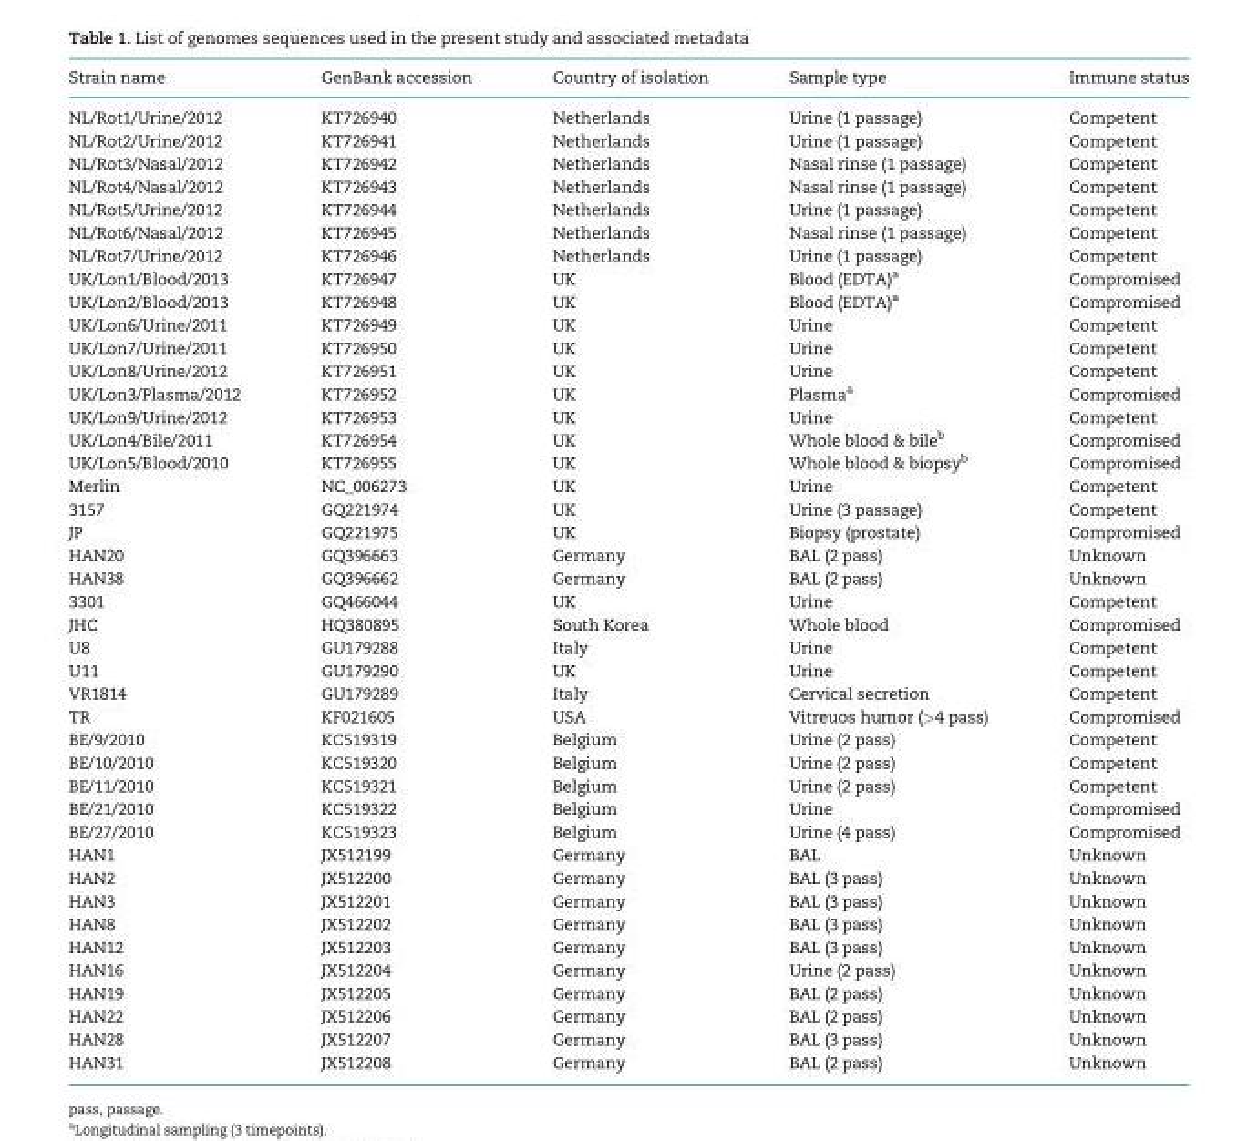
<table><thead><tr><td>Strain name</td><td>GenBank accession</td><td>Country of isolation</td><td>Sample type</td><td>Immune status</td></tr></thead><tbody><tr><td>NL/Rot1/Urine/2012</td><td>KT726940</td><td>Netherlands</td><td>Urine (1 passage)</td><td>Competent</td></tr><tr><td>NL/Rot2/Urine/2012</td><td>KT726941</td><td>Netherlands</td><td>Urine (1 passage)</td><td>Competent</td></tr><tr><td>NL/Rot3/Nasal/2012</td><td>KT726942</td><td>Netherlands</td><td>Nasal rinse (1 passage)</td><td>Competent</td></tr><tr><td>NL/Rot4/Nasal/2012</td><td>KT726943</td><td>Netherlands</td><td>Nasal rinse (1 passage)</td><td>Competent</td></tr><tr><td>NL/Rot5/Urine/2012</td><td>KT726944</td><td>Netherlands</td><td>Urine (1 passage)</td><td>Competent</td></tr><tr><td>NL/Rot6/Nasal/2012</td><td>KT726945</td><td>Netherlands</td><td>Nasal rinse (1 passage)</td><td>Competent</td></tr><tr><td>NL/Rot7/Urine/2012</td><td>KT726946</td><td>Netherlands</td><td>Urine (1 passage)</td><td>Competent</td></tr><tr><td>UK/Lon1/Blood/2013</td><td>KT726947</td><td>UK</td><td>Blood (EDTA)<sup>a</sup></td><td>Compromised</td></tr><tr><td>UK/Lon2/Blood/2013</td><td>KT726948</td><td>UK</td><td>Blood (EDTA)<sup>a</sup></td><td>Compromised</td></tr><tr><td>UK/Lon6/Urine/2011</td><td>KT726949</td><td>UK</td><td>Urine</td><td>Competent</td></tr><tr><td>UK/Lon7/Urine/2011</td><td>KT726950</td><td>UK</td><td>Urine</td><td>Competent</td></tr><tr><td>UK/Lon8/Urine/2012</td><td>KT726951</td><td>UK</td><td>Urine</td><td>Competent</td></tr><tr><td>UK/Lon3/Plasma/2012</td><td>KT726952</td><td>UK</td><td>Plasma<sup>a</sup></td><td>Compromised</td></tr><tr><td>UK/Lon9/Urine/2012</td><td>KT726953</td><td>UK</td><td>Urine</td><td>Competent</td></tr><tr><td>UK/Lon4/Bile/2011</td><td>KT726954</td><td>UK</td><td>Whole blood &amp; bile<sup>b</sup></td><td>Compromised</td></tr><tr><td>UK/Lon5/Blood/2010</td><td>KT726955</td><td>UK</td><td>Whole blood &amp; biopsy<sup>b</sup></td><td>Compromised</td></tr><tr><td>Merlin</td><td>NC_006273</td><td>UK</td><td>Urine</td><td>Competent</td></tr><tr><td>3157</td><td>GQ221974</td><td>UK</td><td>Urine (3 passage)</td><td>Competent</td></tr><tr><td>JP</td><td>GQ221975</td><td>UK</td><td>Biopsy (prostate)</td><td>Compromised</td></tr><tr><td>HAN20</td><td>GQ396663</td><td>Germany</td><td>BAL (2 pass)</td><td>Unknown</td></tr><tr><td>HAN38</td><td>GQ396662</td><td>Germany</td><td>BAL (2 pass)</td><td>Unknown</td></tr><tr><td>3301</td><td>GQ466044</td><td>UK</td><td>Urine</td><td>Competent</td></tr><tr><td>JHC</td><td>HQ380895</td><td>South Korea</td><td>Whole blood</td><td>Compromised</td></tr><tr><td>U8</td><td>GU179288</td><td>Italy</td><td>Urine</td><td>Competent</td></tr><tr><td>U11</td><td>GU179290</td><td>UK</td><td>Urine</td><td>Competent</td></tr><tr><td>VR1814</td><td>GU179289</td><td>Italy</td><td>Cervical secretion</td><td>Competent</td></tr><tr><td>TR</td><td>KF021605</td><td>USA</td><td>Vitreuos humor (&gt;4 pass)</td><td>Compromised</td></tr><tr><td>BE/9/2010</td><td>KC519319</td><td>Belgium</td><td>Urine (2 pass)</td><td>Competent</td></tr><tr><td>BE/10/2010</td><td>KC519320</td><td>Belgium</td><td>Urine (2 pass)</td><td>Competent</td></tr><tr><td>BE/11/2010</td><td>KC519321</td><td>Belgium</td><td>Urine (2 pass)</td><td>Competent</td></tr><tr><td>BE/21/2010</td><td>KC519322</td><td>Belgium</td><td>Urine</td><td>Compromised</td></tr><tr><td>BE/27/2010</td><td>KC519323</td><td>Belgium</td><td>Urine (4 pass)</td><td>Compromised</td></tr><tr><td>HAN1</td><td>JX512199</td><td>Germany</td><td>BAL</td><td>Unknown</td></tr><tr><td>HAN2</td><td>JX512200</td><td>Germany</td><td>BAL (3 pass)</td><td>Unknown</td></tr><tr><td>HAN3</td><td>JX512201</td><td>Germany</td><td>BAL (3 pass)</td><td>Unknown</td></tr><tr><td>HAN8</td><td>JX512202</td><td>Germany</td><td>BAL (3 pass)</td><td>Unknown</td></tr><tr><td>HAN12</td><td>JX512203</td><td>Germany</td><td>BAL (3 pass)</td><td>Unknown</td></tr><tr><td>HAN16</td><td>JX512204</td><td>Germany</td><td>Urine (2 pass)</td><td>Unknown</td></tr><tr><td>HAN19</td><td>JX512205</td><td>Germany</td><td>BAL (2 pass)</td><td>Unknown</td></tr><tr><td>HAN22</td><td>JX512206</td><td>Germany</td><td>BAL (2 pass)</td><td>Unknown</td></tr><tr><td>HAN28</td><td>JX512207</td><td>Germany</td><td>BAL (3 pass)</td><td>Unknown</td></tr><tr><td>HAN31</td><td>JX512208</td><td>Germany</td><td>BAL (2 pass)</td><td>Unknown</td></tr></tbody></table>